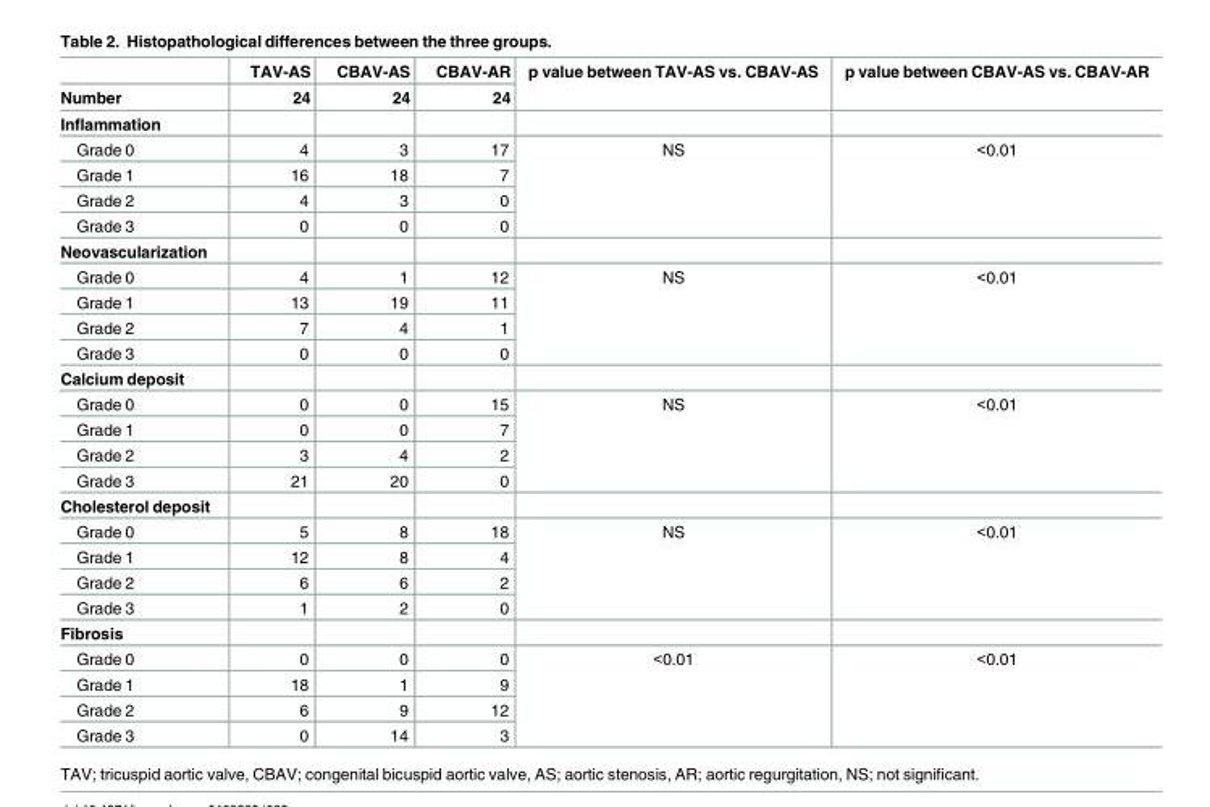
<table><thead><tr><td rowspan="2">Number</td><td rowspan="2">TAV-AS 24</td><td rowspan="2">CBAV-AS 24</td><td rowspan="2">CBAV-AR 24</td><td rowspan="2">p value between TAV-AS vs. CBAV-AS</td><td rowspan="2">p value between CBAV-AS vs. CBAV-AR</td></tr><tr></tr></thead><tbody><tr><td colspan="6">Inflammation</td></tr><tr><td>Grade 0</td><td>4</td><td>3</td><td>17</td><td rowspan="4">NS</td><td rowspan="4">&lt;0.01</td></tr><tr><td>Grade 1</td><td>16</td><td>18</td><td>7</td></tr><tr><td>Grade 2</td><td>4</td><td>3</td><td>0</td></tr><tr><td>Grade 3</td><td>0</td><td>0</td><td>0</td></tr><tr><td colspan="6">Neovascularization</td></tr><tr><td>Grade 0</td><td>4</td><td>1</td><td>12</td><td rowspan="4">NS</td><td rowspan="4">&lt;0.01</td></tr><tr><td>Grade 1</td><td>13</td><td>19</td><td>11</td></tr><tr><td>Grade 2</td><td>7</td><td>4</td><td>1</td></tr><tr><td>Grade 3</td><td>0</td><td>0</td><td>0</td></tr><tr><td colspan="6">Calcium deposit</td></tr><tr><td>Grade 0</td><td>0</td><td>0</td><td>15</td><td rowspan="4">NS</td><td rowspan="4">&lt;0.01</td></tr><tr><td>Grade 1</td><td>0</td><td>0</td><td>7</td></tr><tr><td>Grade 2</td><td>3</td><td>4</td><td>2</td></tr><tr><td>Grade 3</td><td>21</td><td>20</td><td>0</td></tr><tr><td colspan="6">Cholesterol deposit</td></tr><tr><td>Grade 0</td><td>5</td><td>8</td><td>18</td><td rowspan="4">NS</td><td rowspan="4">&lt;0.01</td></tr><tr><td>Grade 1</td><td>12</td><td>8</td><td>4</td></tr><tr><td>Grade 2</td><td>6</td><td>6</td><td>2</td></tr><tr><td>Grade 3</td><td>1</td><td>2</td><td>0</td></tr><tr><td colspan="6">Fibrosis</td></tr><tr><td>Grade 0</td><td>0</td><td>0</td><td>0</td><td rowspan="4">&lt;0.01</td><td rowspan="4">&lt;0.01</td></tr><tr><td>Grade 1</td><td>18</td><td>1</td><td>9</td></tr><tr><td>Grade 2</td><td>6</td><td>9</td><td>12</td></tr><tr><td>Grade 3</td><td>0</td><td>14</td><td>3</td></tr></tbody></table>